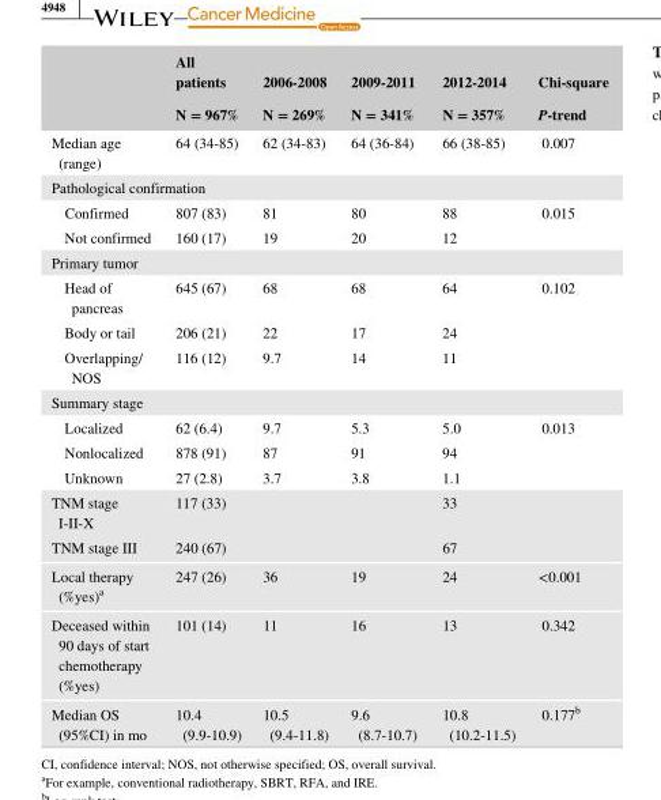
<table><thead><tr><td rowspan="2"></td><td rowspan="2">All patients N = 967%</td><td rowspan="2">2006- 2008 N = 269%</td><td rowspan="2">2009- 2011 N = 341%</td><td rowspan="2">2012- 2014 N = 357%</td><td rowspan="2">Chi- square P- trend</td></tr><tr></tr></thead><tbody><tr><td>Median age (range)</td><td>64 (34- 85)</td><td>62 (34- 83)</td><td>64 (36- 84)</td><td>66 (38- 85)</td><td>0.007</td></tr><tr><td colspan="6">Pathological confirmation</td></tr><tr><td>Confirmed</td><td>807 (83)</td><td>81</td><td>80</td><td>88</td><td rowspan="2">0.015</td></tr><tr><td>Not confirmed</td><td>160 (17)</td><td>19</td><td>20</td><td>12</td></tr><tr><td colspan="6">Primary tumor</td></tr><tr><td>Head of pancreas</td><td>645 (67)</td><td>68</td><td>68</td><td>64</td><td rowspan="3">0.102</td></tr><tr><td>Body or tail</td><td>206 (21)</td><td>22</td><td>17</td><td>24</td></tr><tr><td>Overlapping/ NOS</td><td>116 (12)</td><td>9.7</td><td>14</td><td>11</td></tr><tr><td colspan="6">Summary stage</td></tr><tr><td>Localized</td><td>62 (6.4)</td><td>9.7</td><td>5.3</td><td>5.0</td><td rowspan="3">0.013</td></tr><tr><td>Nonlocalized</td><td>878 (91)</td><td>87</td><td>91</td><td>94</td></tr><tr><td>Unknown</td><td>27 (2.8)</td><td>3.7</td><td>3.8</td><td>1.1</td></tr><tr><td>TNM stage I- II- X</td><td>117 (33)</td><td></td><td></td><td>33</td><td></td></tr><tr><td>TNM stage III</td><td>240 (67)</td><td></td><td></td><td>67</td><td></td></tr><tr><td>Local therapy (%yes)<sup>a</sup></td><td>247 (26)</td><td>36</td><td>19</td><td>24</td><td>&lt;0.001</td></tr><tr><td>Deceased within 90 days of start chemotherapy (%yes)</td><td>101 (14)</td><td>11</td><td>16</td><td>13</td><td>0.342</td></tr><tr><td>Median OS (95%CI) in mo</td><td>10.4 (9.9- 10.9)</td><td>10.5 (9.4- 11.8)</td><td>9.6 (8.7- 10.7)</td><td>10.8 (10.2- 11.5)</td><td>0.177<sup>b</sup></td></tr></tbody></table>